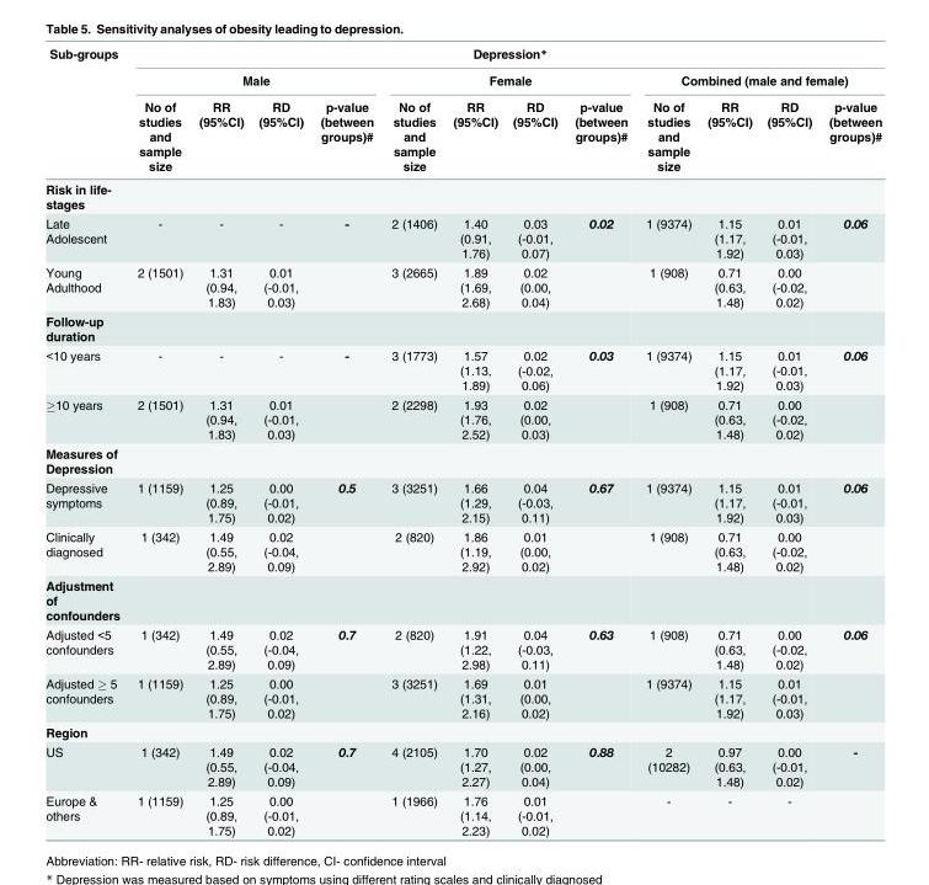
<table><thead><tr><td rowspan="3">Sub-groups</td><td colspan="12">Depression*</td></tr><tr><td colspan="4">Male</td><td colspan="4">Female</td><td colspan="4">Combined (male and female)</td></tr><tr><td>No of studies and sample size</td><td>RR (95%CI)</td><td>RD (95%CI)</td><td>p-value (between groups)#</td><td>No of studies and sample size</td><td>RR (95%CI)</td><td>RD (95%CI)</td><td>p-value (between groups)#</td><td>No of studies and sample size</td><td>RR (95%CI)</td><td>RD (95%CI)</td><td>p-value (between groups)#</td></tr></thead><tbody><tr><td colspan="13">Risk in life- stages</td></tr><tr><td>Late Adolescent</td><td>-</td><td>-</td><td>-</td><td>-</td><td>2 (1406)</td><td>1.40 (0.91, 1.76)</td><td>0.03 (-0.01, 0.07)</td><td>0.02</td><td>1 (9374)</td><td>1.15 (1.17, 1.92)</td><td>0.01 (-0.01, 0.03)</td><td>0.06</td></tr><tr><td>Young Adulthood</td><td>2 (1501)</td><td>1.31 (0.94, 1.83)</td><td>0.01 (-0.01, 0.03)</td><td></td><td>3 (2665)</td><td>1.89 (1.69, 2.68)</td><td>0.02 (0.00, 0.04)</td><td></td><td>1 (908)</td><td>0.71 (0.63, 1.48)</td><td>0.00 (-0.02, 0.02)</td><td></td></tr><tr><td colspan="13">Follow-up duration</td></tr><tr><td>&lt;10 years</td><td>-</td><td>-</td><td>-</td><td>-</td><td>3 (1773)</td><td>1.57 (1.13, 1.89)</td><td>0.02 (-0.02, 0.06)</td><td>0.03</td><td>1 (9374)</td><td>1.15 (1.17, 1.92)</td><td>0.01 (-0.01, 0.03)</td><td>0.06</td></tr><tr><td>≥10 years</td><td>2 (1501)</td><td>1.31 (0.94, 1.83)</td><td>0.01 (-0.01, 0.03)</td><td></td><td>2 (2298)</td><td>1.93 (1.76, 2.52)</td><td>0.02 (0.00, 0.03)</td><td></td><td>1 (908)</td><td>0.71 (0.63, 1.48)</td><td>0.00 (-0.02, 0.02)</td><td></td></tr><tr><td colspan="13">Measures of Depression</td></tr><tr><td>Depressive symptoms</td><td>1 (1159)</td><td>1.25 (0.89, 1.75)</td><td>0.00 (-0.01, 0.02)</td><td>0.5</td><td>3 (3251)</td><td>1.66 (1.29, 2.15)</td><td>0.04 (-0.03, 0.11)</td><td>0.67</td><td>1 (9374)</td><td>1.15 (1.17, 1.92)</td><td>0.01 (-0.01, 0.03)</td><td>0.06</td></tr><tr><td>Clinically diagnosed</td><td>1 (342)</td><td>1.49 (0.55, 2.89)</td><td>0.02 (-0.04, 0.09)</td><td></td><td>2 (820)</td><td>1.86 (1.19, 2.92)</td><td>0.01 (0.00, 0.02)</td><td></td><td>1 (908)</td><td>0.71 (0.63, 1.48)</td><td>0.00 (-0.02, 0.02)</td><td></td></tr><tr><td colspan="13">Adjustment of confounders</td></tr><tr><td>Adjusted &lt;5 confounders</td><td>1 (342)</td><td>1.49 (0.55, 2.89)</td><td>0.02 (-0.04, 0.09)</td><td>0.7</td><td>2 (820)</td><td>1.91 (1.22, 2.98)</td><td>0.04 (-0.03, 0.11)</td><td>0.63</td><td>1 (908)</td><td>0.71 (0.63, 1.48)</td><td>0.00 (-0.02, 0.02)</td><td>0.06</td></tr><tr><td>Adjusted ≥ 5 confounders</td><td>1 (1159)</td><td>1.25 (0.89, 1.75)</td><td>0.00 (-0.01, 0.02)</td><td></td><td>3 (3251)</td><td>1.69 (1.31, 2.16)</td><td>0.01 (0.00, 0.02)</td><td></td><td>1 (9374)</td><td>1.15 (1.17, 1.92)</td><td>0.01 (-0.01, 0.03)</td><td></td></tr><tr><td colspan="13">Region</td></tr><tr><td>US</td><td>1 (342)</td><td>1.49 (0.55, 2.89)</td><td>0.02 (-0.04, 0.09)</td><td>0.7</td><td>4 (2105)</td><td>1.70 (1.27, 2.27)</td><td>0.02 (0.00, 0.04)</td><td>0.88</td><td>2 (10282)</td><td>0.97 (0.63, 1.48)</td><td>0.00 (-0.01, 0.02)</td><td>-</td></tr><tr><td>Europe &amp; others</td><td>1 (1159)</td><td>1.25 (0.89, 1.75)</td><td>0.00 (-0.01, 0.02)</td><td></td><td>1 (1966)</td><td>1.76 (1.14, 2.23)</td><td>0.01 (-0.01, 0.02)</td><td></td><td>-</td><td>-</td><td>-</td><td></td></tr></tbody></table>